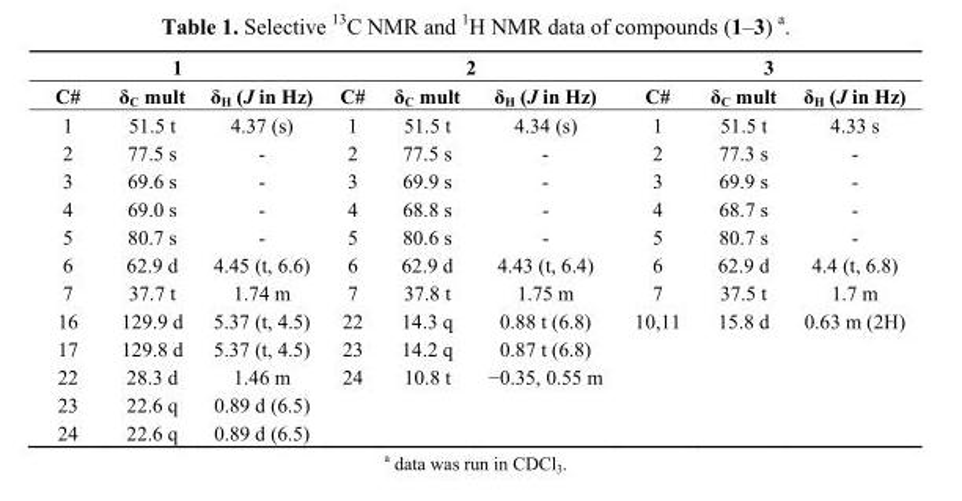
<table><thead><tr><td colspan="3">1</td><td colspan="3">2</td><td colspan="3">3</td></tr><tr><td>C#</td><td>δ<sub>C</sub> mult</td><td>δ<sub>H</sub> (J in Hz)</td><td>C#</td><td>δ<sub>C</sub> mult</td><td>δ<sub>H</sub> (J in Hz)</td><td>C#</td><td>δ<sub>C</sub> mult</td><td>δ<sub>H</sub> (J in Hz)</td></tr></thead><tbody><tr><td>1</td><td>51.5 t</td><td>4.37 (s)</td><td>1</td><td>51.5 t</td><td>4.34 (s)</td><td>1</td><td>51.5 t</td><td>4.33 s</td></tr><tr><td>2</td><td>77.5 s</td><td>-</td><td>2</td><td>77.5 s</td><td>-</td><td>2</td><td>77.3 s</td><td>-</td></tr><tr><td>3</td><td>69.6 s</td><td>-</td><td>3</td><td>69.9 s</td><td>-</td><td>3</td><td>69.9 s</td><td>-</td></tr><tr><td>4</td><td>69.0 s</td><td>-</td><td>4</td><td>68.8 s</td><td>-</td><td>4</td><td>68.7 s</td><td>-</td></tr><tr><td>5</td><td>80.7 s</td><td>-</td><td>5</td><td>80.6 s</td><td>-</td><td>5</td><td>80.7 s</td><td>-</td></tr><tr><td>6</td><td>62.9 d</td><td>4.45 (t, 6.6)</td><td>6</td><td>62.9 d</td><td>4.43 (t, 6.4)</td><td>6</td><td>62.9 d</td><td>4.4 (t, 6.8)</td></tr><tr><td>7</td><td>37.7 t</td><td>1.74 m</td><td>7</td><td>37.8 t</td><td>1.75 m</td><td>7</td><td>37.5 t</td><td>1.7 m</td></tr><tr><td>16</td><td>129.9 d</td><td>5.37 (t, 4.5)</td><td>22</td><td>14.3 q</td><td>0.88 t (6.8)</td><td>10,11</td><td>15.8 d</td><td>0.63 m (2H)</td></tr><tr><td>17</td><td>129.8 d</td><td>5.37 (t, 4.5)</td><td>23</td><td>14.2 q</td><td>0.87 t (6.8)</td><td></td><td></td><td></td></tr><tr><td>22</td><td>28.3 d</td><td>1.46 m</td><td>24</td><td>10.8 t</td><td>−0.35, 0.55 m</td><td></td><td></td><td></td></tr><tr><td>23</td><td>22.6 q</td><td>0.89 d (6.5)</td><td></td><td></td><td></td><td></td><td></td><td></td></tr><tr><td>24</td><td>22.6 q</td><td>0.89 d (6.5)</td><td></td><td></td><td></td><td></td><td></td><td></td></tr></tbody></table>